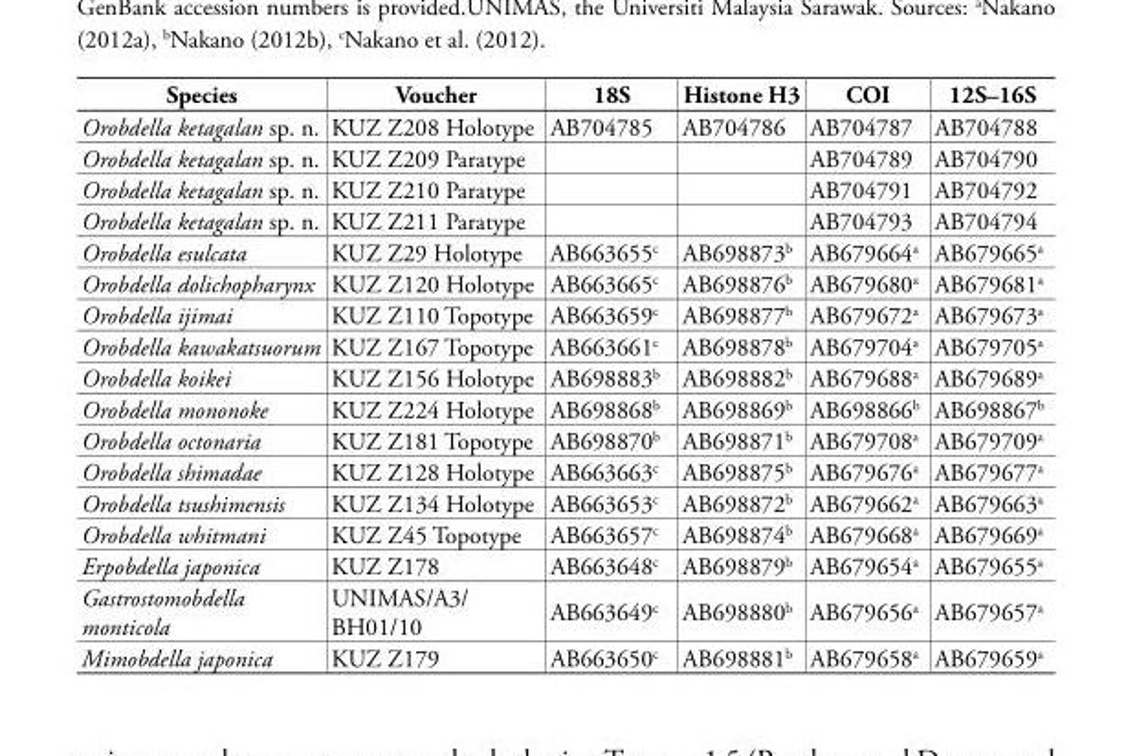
<table><thead><tr><td>Species</td><td>Voucher</td><td>18S</td><td>Histone H3</td><td>COI</td><td>12S–16S</td></tr></thead><tbody><tr><td>Orobdella ketagalan sp. n.</td><td>KUZ Z208 Holotype</td><td>AB704785</td><td>AB704786</td><td>AB704787</td><td>AB704788</td></tr><tr><td>Orobdella ketagalan sp. n.</td><td>KUZ Z209 Paratype</td><td></td><td></td><td>AB704789</td><td>AB704790</td></tr><tr><td>Orobdella ketagalan sp. n.</td><td>KUZ Z210 Paratype</td><td></td><td></td><td>AB704791</td><td>AB704792</td></tr><tr><td>Orobdella ketagalan sp. n.</td><td>KUZ Z211 Paratype</td><td></td><td></td><td>AB704793</td><td>AB704794</td></tr><tr><td>Orobdella esulcata</td><td>KUZ Z29 Holotype</td><td>AB663655<sup>c</sup></td><td>AB698873<sup>b</sup></td><td>AB679664<sup>a</sup></td><td>AB679665<sup>a</sup></td></tr><tr><td>Orobdella dolichopharynx</td><td>KUZ Z120 Holotype</td><td>AB663665<sup>c</sup></td><td>AB698876<sup>b</sup></td><td>AB679680<sup>a</sup></td><td>AB679681<sup>a</sup></td></tr><tr><td>Orobdella ijimai</td><td>KUZ Z110 Topotype</td><td>AB663659<sup>c</sup></td><td>AB698877<sup>b</sup></td><td>AB679672<sup>a</sup></td><td>AB679673<sup>a</sup></td></tr><tr><td>Orobdella kawakatsuorum</td><td>KUZ Z167 Topotype</td><td>AB663661<sup>c</sup></td><td>AB698878<sup>b</sup></td><td>AB679704<sup>a</sup></td><td>AB679705<sup>a</sup></td></tr><tr><td>Orobdella koikei</td><td>KUZ Z156 Holotype</td><td>AB698883<sup>b</sup></td><td>AB698882<sup>b</sup></td><td>AB679688<sup>a</sup></td><td>AB679689<sup>a</sup></td></tr><tr><td>Orobdella mononoke</td><td>KUZ Z224 Holotype</td><td>AB698868<sup>b</sup></td><td>AB698869<sup>b</sup></td><td>AB698866<sup>b</sup></td><td>AB698867<sup>b</sup></td></tr><tr><td>Orobdella octonaria</td><td>KUZ Z181 Topotype</td><td>AB698870<sup>b</sup></td><td>AB698871<sup>b</sup></td><td>AB679708<sup>a</sup></td><td>AB679709<sup>a</sup></td></tr><tr><td>Orobdella shimadae</td><td>KUZ Z128 Holotype</td><td>AB663663<sup>c</sup></td><td>AB698875<sup>b</sup></td><td>AB679676<sup>a</sup></td><td>AB679677<sup>a</sup></td></tr><tr><td>Orobdella tsushimensis</td><td>KUZ Z134 Holotype</td><td>AB663653<sup>c</sup></td><td>AB698872<sup>b</sup></td><td>AB679662<sup>a</sup></td><td>AB679663<sup>a</sup></td></tr><tr><td>Orobdella whitmani</td><td>KUZ Z45 Topotype</td><td>AB663657<sup>c</sup></td><td>AB698874<sup>b</sup></td><td>AB679668<sup>a</sup></td><td>AB679669<sup>a</sup></td></tr><tr><td>Erpobdella japonica</td><td>KUZ Z178</td><td>AB663648<sup>c</sup></td><td>AB698879<sup>b</sup></td><td>AB679654<sup>a</sup></td><td>AB679655<sup>a</sup></td></tr><tr><td>Gastrostomobdella monticola</td><td>UNIMAS/A3/ BH01/10</td><td>AB663649<sup>c</sup></td><td>AB698880<sup>b</sup></td><td>AB679656<sup>a</sup></td><td>AB679657<sup>a</sup></td></tr><tr><td>Mimobdella japonica</td><td>KUZ Z179</td><td>AB663650<sup>c</sup></td><td>AB698881<sup>b</sup></td><td>AB679658<sup>a</sup></td><td>AB679659<sup>a</sup></td></tr></tbody></table>